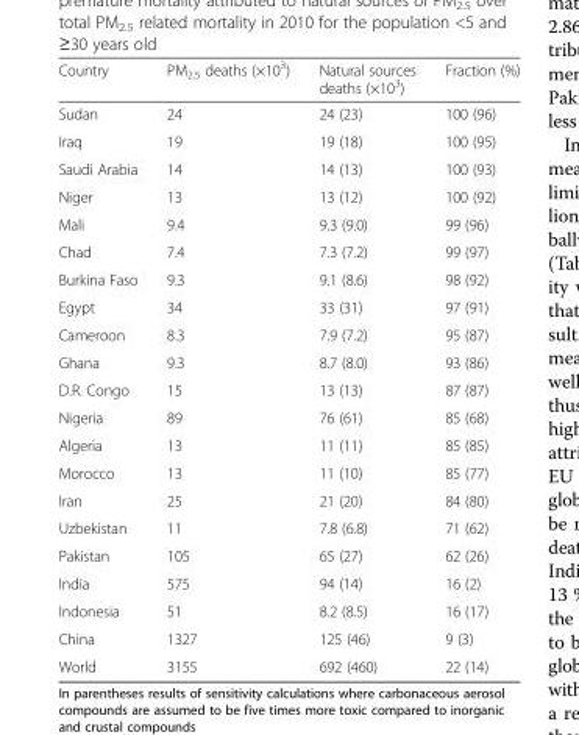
<table><thead><tr><td>Country</td><td>PM<sub>2.5</sub> deaths (×10<sup>3</sup>)</td><td>Natural sources deaths (×10<sup>3</sup>)</td><td>Fraction (%)</td></tr></thead><tbody><tr><td>Sudan</td><td>24</td><td>24 (23)</td><td>100 (96)</td></tr><tr><td>Iraq</td><td>19</td><td>19 (18)</td><td>100 (95)</td></tr><tr><td>Saudi Arabia</td><td>14</td><td>14 (13)</td><td>100 (93)</td></tr><tr><td>Niger</td><td>13</td><td>13 (12)</td><td>100 (92)</td></tr><tr><td>Mali</td><td>9.4</td><td>9.3 (9.0)</td><td>99 (96)</td></tr><tr><td>Chad</td><td>7.4</td><td>7.3 (7.2)</td><td>99 (97)</td></tr><tr><td>Burkina Faso</td><td>9.3</td><td>9.1 (8.6)</td><td>98 (92)</td></tr><tr><td>Egypt</td><td>34</td><td>33 (31)</td><td>97 (91)</td></tr><tr><td>Cameroon</td><td>8.3</td><td>7.9 (7.2)</td><td>95 (87)</td></tr><tr><td>Ghana</td><td>9.3</td><td>8.7 (8.0)</td><td>93 (86)</td></tr><tr><td>D.R. Congo</td><td>15</td><td>13 (13)</td><td>87 (87)</td></tr><tr><td>Nigeria</td><td>89</td><td>76 (61)</td><td>85 (68)</td></tr><tr><td>Algeria</td><td>13</td><td>11 (11)</td><td>85 (85)</td></tr><tr><td>Morocco</td><td>13</td><td>11 (10)</td><td>85 (77)</td></tr><tr><td>Iran</td><td>25</td><td>21 (20)</td><td>84 (80)</td></tr><tr><td>Uzbekistan</td><td>11</td><td>7.8 (6.8)</td><td>71 (62)</td></tr><tr><td>Pakistan</td><td>105</td><td>65 (27)</td><td>62 (26)</td></tr><tr><td>India</td><td>575</td><td>94 (14)</td><td>16 (2)</td></tr><tr><td>Indonesia</td><td>51</td><td>8.2 (8.5)</td><td>16 (17)</td></tr><tr><td>China</td><td>1327</td><td>125 (46)</td><td>9 (3)</td></tr><tr><td>World</td><td>3155</td><td>692 (460)</td><td>22 (14)</td></tr></tbody></table>